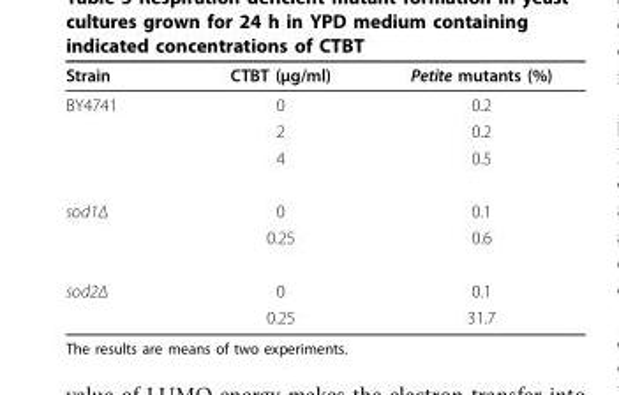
<table><thead><tr><td>Strain</td><td>CTBT (μg/ml)</td><td>Petite mutants (%)</td></tr></thead><tbody><tr><td rowspan="3">BY4741</td><td>0</td><td>0.2</td></tr><tr><td>2</td><td>0.2</td></tr><tr><td>4</td><td>0.5</td></tr><tr><td rowspan="2">sod1Δ</td><td>0</td><td>0.1</td></tr><tr><td>0.25</td><td>0.6</td></tr><tr><td rowspan="2">sod2Δ</td><td>0</td><td>0.1</td></tr><tr><td>0.25</td><td>31.7</td></tr></tbody></table>